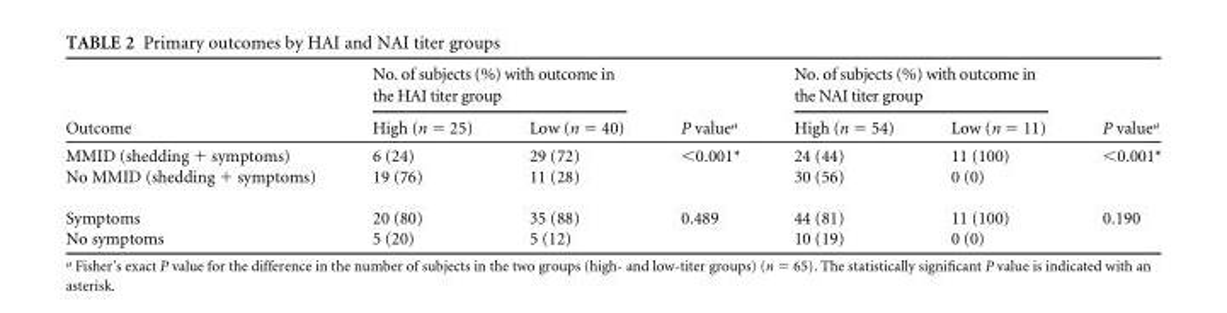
<table><thead><tr><td rowspan="2">Outcome</td><td colspan="2">No. of subjects (%) with outcome in the HAI titer group</td><td rowspan="2">P value<sup>a</sup></td><td colspan="2">No. of subjects (%) with outcome in the NAI titer group</td><td rowspan="2">P value<sup>a</sup></td></tr><tr><td>High (n = 25)</td><td>Low (n = 40)</td><td>High (n = 54)</td><td>Low (n = 11)</td></tr></thead><tbody><tr><td>MMID (shedding + symptoms)</td><td>6 (24)</td><td>29 (72)</td><td>&lt;0.001*</td><td>24 (44)</td><td>11 (100)</td><td>&lt;0.001*</td></tr><tr><td>No MMID (shedding + symptoms)</td><td>19 (76)</td><td>11 (28)</td><td></td><td>30 (56)</td><td>0 (0)</td><td></td></tr><tr><td>Symptoms</td><td>20 (80)</td><td>35 (88)</td><td>0.489</td><td>44 (81)</td><td>11 (100)</td><td>0.190</td></tr><tr><td>No symptoms</td><td>5 (20)</td><td>5 (12)</td><td></td><td>10 (19)</td><td>0 (0)</td><td></td></tr></tbody></table>